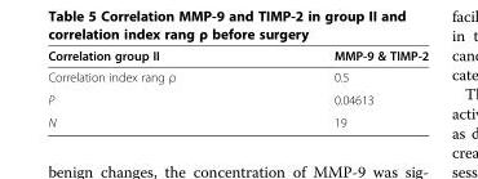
<table><thead><tr><td>Correlation group II</td><td>MMP-9 &amp; TIMP-2</td></tr></thead><tbody><tr><td>Correlation index rang ρ</td><td>0.5</td></tr><tr><td>P</td><td>0.04613</td></tr><tr><td>N</td><td>19</td></tr></tbody></table>